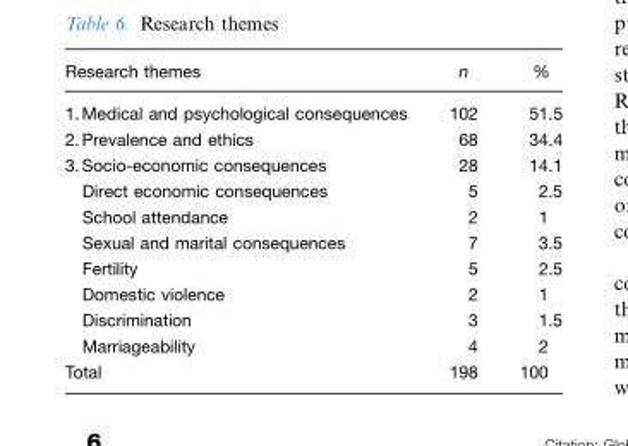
<table><thead><tr><td>Research themes</td><td>n</td><td>%</td></tr></thead><tbody><tr><td>1.Medical and psychological consequences</td><td>102</td><td>51.5</td></tr><tr><td>2.Prevalence and ethics</td><td>68</td><td>34.4</td></tr><tr><td>3.Socio-economic consequences</td><td>28</td><td>14.1</td></tr><tr><td>Direct economic consequences</td><td>5</td><td>2.5</td></tr><tr><td>School attendance</td><td>2</td><td>1</td></tr><tr><td>Sexual and marital consequences</td><td>7</td><td>3.5</td></tr><tr><td>Fertility</td><td>5</td><td>2.5</td></tr><tr><td>Domestic violence</td><td>2</td><td>1</td></tr><tr><td>Discrimination</td><td>3</td><td>1.5</td></tr><tr><td>Marriageability</td><td>4</td><td>2</td></tr><tr><td>Total</td><td>198</td><td>100</td></tr></tbody></table>